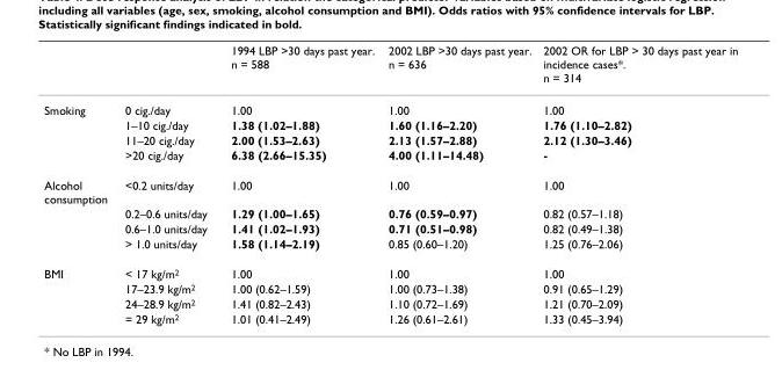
<table><thead><tr><td></td><td></td><td>1994 LBP &gt;30 days past year. n = 588</td><td>2002 LBP &gt;30 days past year. n = 636</td><td>2002 OR for LBP &gt; 30 days past year in incidence cases*. n = 314</td></tr></thead><tbody><tr><td rowspan="4">Smoking</td><td>0 cig./day</td><td>1.00</td><td>1.00</td><td>1.00</td></tr><tr><td>1–10 cig./day</td><td>1.38 (1.02–1.88)</td><td>1.60 (1.16–2.20)</td><td>1.76 (1.10–2.82)</td></tr><tr><td>11–20 cig./day</td><td>2.00 (1.53–2.63)</td><td>2.13 (1.57–2.88)</td><td>2.12 (1.30–3.46)</td></tr><tr><td>&gt;20 cig./day</td><td>6.38 (2.66–15.35)</td><td>4.00 (1.11–14.48)</td><td>-</td></tr><tr><td rowspan="4">Alcohol consumption</td><td>&lt;0.2 units/day</td><td>1.00</td><td>1.00</td><td>1.00</td></tr><tr><td>0.2–0.6 units/day</td><td>1.29 (1.00–1.65)</td><td>0.76 (0.59–0.97)</td><td>0.82 (0.57–1.18)</td></tr><tr><td>0.6–1.0 units/day</td><td>1.41 (1.02–1.93)</td><td>0.71 (0.51–0.98)</td><td>0.82 (0.49–1.38)</td></tr><tr><td>&gt; 1.0 units/day</td><td>1.58 (1.14–2.19)</td><td>0.85 (0.60–1.20)</td><td>1.25 (0.76–2.06)</td></tr><tr><td rowspan="4">BMI</td><td>&lt; 17 kg/m2</td><td>1.00</td><td>1.00</td><td>1.00</td></tr><tr><td>17–23.9 kg/m2</td><td>1.00 (0.62–1.59)</td><td>1.00 (0.73–1.38)</td><td>0.91 (0.65–1.29)</td></tr><tr><td>24–28.9 kg/m2</td><td>1.41 (0.82–2.43)</td><td>1.10 (0.72–1.69)</td><td>1.21 (0.70–2.09)</td></tr><tr><td>= 29 kg/m2</td><td>1.01 (0.41–2.49)</td><td>1.26 (0.61–2.61)</td><td>1.33 (0.45–3.94)</td></tr></tbody></table>